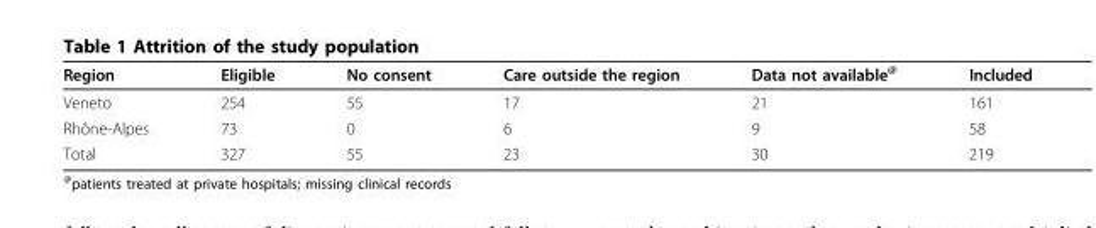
<table><thead><tr><td>Region</td><td>Eligible</td><td>No consent</td><td>Care outside the region</td><td>Data not available<sup>@</sup></td><td>Included</td></tr></thead><tbody><tr><td>Veneto</td><td>254</td><td>55</td><td>17</td><td>21</td><td>161</td></tr><tr><td>Rhône-Alpes</td><td>73</td><td>0</td><td>6</td><td>9</td><td>58</td></tr><tr><td>Total</td><td>327</td><td>55</td><td>23</td><td>30</td><td>219</td></tr></tbody></table>